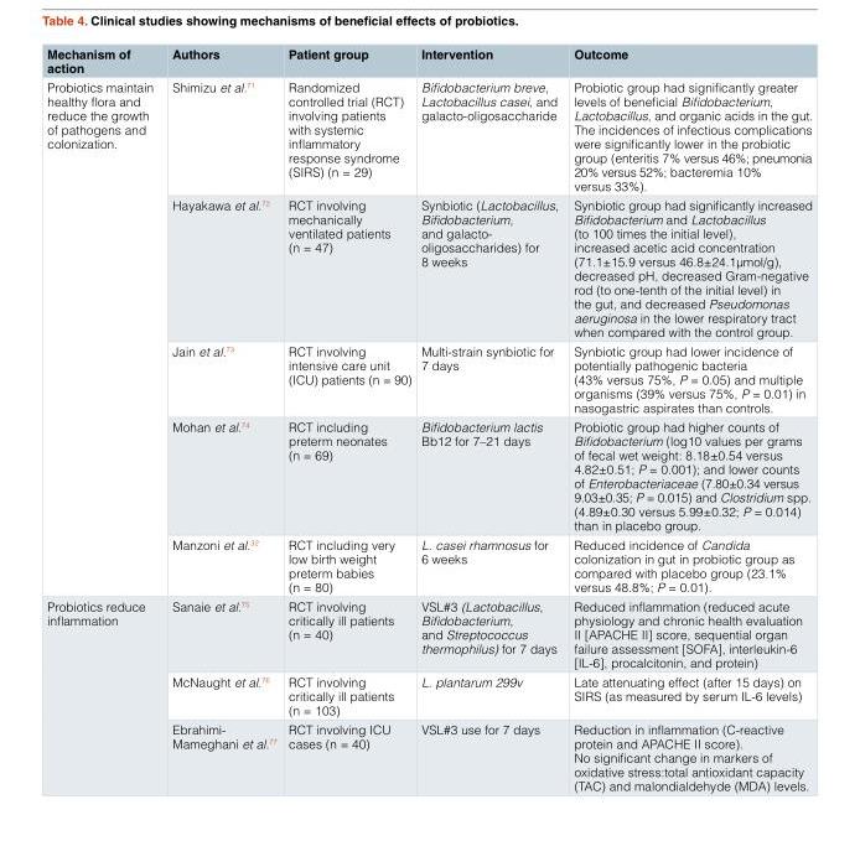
<table><thead><tr><td>Mechanism of action</td><td>Authors</td><td>Patient group</td><td>Intervention</td><td>Outcome</td></tr></thead><tbody><tr><td rowspan="5">Probiotics maintain healthy flora and reduce the growth of pathogens and colonization.</td><td>Shimizu et al.<sup>71</sup></td><td>Randomized controlled trial (RCT) involving patients with systemic inflammatory response syndrome (SIRS) (n = 29)</td><td>Bifidobacterium breve, Lactobacillus casei, and galacto-oligosaccharide</td><td>Probiotic group had significantly greater levels of beneficial Bifidobacterium, Lactobacillus, and organic acids in the gut. The incidences of infectious complications were significantly lower in the probiotic group (enteritis 7% versus 46%; pneumonia 20% versus 52%; bacteremia 10% versus 33%).</td></tr><tr><td>Hayakawa et al.<sup>72</sup></td><td>RCT involving mechanically ventilated patients (n = 47)</td><td>Synbiotic (Lactobacillus, Bifidobacterium, and galacto- oligosaccharides) for 8 weeks</td><td>Synbiotic group had significantly increased Bifidobacterium and Lactobacillus (to 100 times the initial level), increased acetic acid concentration (71.1±15.9 versus 46.8±24.1μmol/g), decreased pH, decreased Gram-negative rod (to one-tenth of the initial level) in the gut, and decreased Pseudomonas aeruginosa in the lower respiratory tract when compared with the control group.</td></tr><tr><td>Jain et al.<sup>73</sup></td><td>RCT involving intensive care unit (ICU) patients (n = 90)</td><td>Multi-strain synbiotic for 7 days</td><td>Synbiotic group had lower incidence of potentially pathogenic bacteria (43% versus 75%, P = 0.05) and multiple organisms (39% versus 75%, P = 0.01) in nasogastric aspirates than controls.</td></tr><tr><td>Mohan et al.<sup>74</sup></td><td>RCT including preterm neonates (n = 69)</td><td>Bifidobacterium lactis Bb12 for 7–21 days</td><td>Probiotic group had higher counts of Bifidobacterium (log10 values per grams of fecal wet weight: 8.18±0.54 versus 4.82±0.51; P = 0.001); and lower counts of Enterobacteriaceae (7.80±0.34 versus 9.03±0.35; P = 0.015) and Clostridium spp. (4.89±0.30 versus 5.99±0.32; P = 0.014) than in placebo group.</td></tr><tr><td>Manzoni et al.<sup>32</sup></td><td>RCT including very low birth weight preterm babies (n = 80)</td><td>L. casei rhamnosus for 6 weeks</td><td>Reduced incidence of Candida colonization in gut in probiotic group as compared with placebo group (23.1% versus 48.8%; P = 0.01).</td></tr><tr><td rowspan="3">Probiotics reduce inflammation</td><td>Sanaie et al.<sup>75</sup></td><td>RCT involving critically ill patients (n = 40)</td><td>VSL#3 (Lactobacillus, Bifidobacterium, and Streptococcus thermophilus) for 7 days</td><td>Reduced inflammation (reduced acute physiology and chronic health evaluation II [APACHE II] score, sequential organ failure assessment [SOFA], interleukin-6 [IL-6], procalcitonin, and protein)</td></tr><tr><td>McNaught et al.<sup>76</sup></td><td>RCT involving critically ill patients (n = 103)</td><td>L. plantarum 299v</td><td>Late attenuating effect (after 15 days) on SIRS (as measured by serum IL-6 levels)</td></tr><tr><td>Ebrahimi- Mameghani et al.<sup>77</sup></td><td>RCT involving ICU cases (n = 40)</td><td>VSL#3 use for 7 days</td><td>Reduction in inflammation (C-reactive protein and APACHE II score). No significant change in markers of oxidative stress:total antioxidant capacity (TAC) and malondialdehyde (MDA) levels.</td></tr></tbody></table>